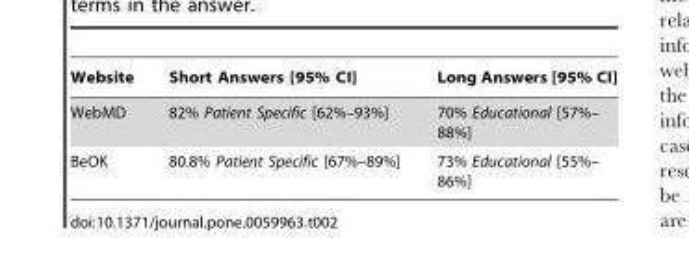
<table><thead><tr><td>Website</td><td>Short Answers [95% CI]</td><td>Long Answers [95% CI]</td></tr></thead><tbody><tr><td>WebMD</td><td>82% Patient Specific [62%–93%]</td><td>70% Educational [57%– 88%]</td></tr><tr><td>BeOK</td><td>80.8% Patient Specific [67%–89%]</td><td>73% Educational [55%– 86%]</td></tr></tbody></table>